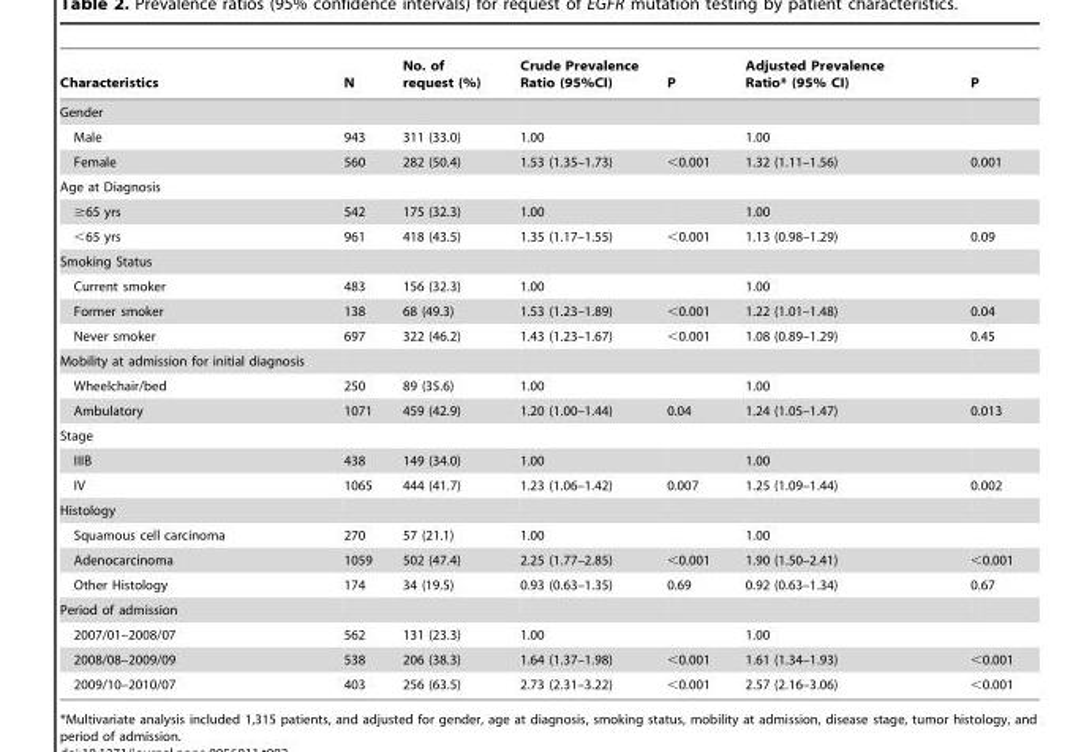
<table><thead><tr><td>Characteristics</td><td>N</td><td>No. of request (%)</td><td>Crude Prevalence Ratio (95%CI)</td><td>P</td><td>Adjusted Prevalence Ratio* (95% CI)</td><td>P</td></tr></thead><tbody><tr><td colspan="7">Gender</td></tr><tr><td>Male</td><td>943</td><td>311 (33.0)</td><td>1.00</td><td></td><td>1.00</td><td></td></tr><tr><td>Female</td><td>560</td><td>282 (50.4)</td><td>1.53 (1.35–1.73)</td><td>&lt;0.001</td><td>1.32 (1.11–1.56)</td><td>0.001</td></tr><tr><td colspan="7">Age at Diagnosis</td></tr><tr><td>≥65 yrs</td><td>542</td><td>175 (32.3)</td><td>1.00</td><td></td><td>1.00</td><td></td></tr><tr><td>&lt;65 yrs</td><td>961</td><td>418 (43.5)</td><td>1.35 (1.17–1.55)</td><td>&lt;0.001</td><td>1.13 (0.98–1.29)</td><td>0.09</td></tr><tr><td colspan="7">Smoking Status</td></tr><tr><td>Current smoker</td><td>483</td><td>156 (32.3)</td><td>1.00</td><td></td><td>1.00</td><td></td></tr><tr><td>Former smoker</td><td>138</td><td>68 (49.3)</td><td>1.53 (1.23–1.89)</td><td>&lt;0.001</td><td>1.22 (1.01–1.48)</td><td>0.04</td></tr><tr><td>Never smoker</td><td>697</td><td>322 (46.2)</td><td>1.43 (1.23–1.67)</td><td>&lt;0.001</td><td>1.08 (0.89–1.29)</td><td>0.45</td></tr><tr><td colspan="7">Mobility at admission for initial diagnosis</td></tr><tr><td>Wheelchair/bed</td><td>250</td><td>89 (35.6)</td><td>1.00</td><td></td><td>1.00</td><td></td></tr><tr><td>Ambulatory</td><td>1071</td><td>459 (42.9)</td><td>1.20 (1.00–1.44)</td><td>0.04</td><td>1.24 (1.05–1.47)</td><td>0.013</td></tr><tr><td colspan="7">Stage</td></tr><tr><td>IIIB</td><td>438</td><td>149 (34.0)</td><td>1.00</td><td></td><td>1.00</td><td></td></tr><tr><td>IV</td><td>1065</td><td>444 (41.7)</td><td>1.23 (1.06–1.42)</td><td>0.007</td><td>1.25 (1.09–1.44)</td><td>0.002</td></tr><tr><td colspan="7">Histology</td></tr><tr><td>Squamous cell carcinoma</td><td>270</td><td>57 (21.1)</td><td>1.00</td><td></td><td>1.00</td><td></td></tr><tr><td>Adenocarcinoma</td><td>1059</td><td>502 (47.4)</td><td>2.25 (1.77–2.85)</td><td>&lt;0.001</td><td>1.90 (1.50–2.41)</td><td>&lt;0.001</td></tr><tr><td>Other Histology</td><td>174</td><td>34 (19.5)</td><td>0.93 (0.63–1.35)</td><td>0.69</td><td>0.92 (0.63–1.34)</td><td>0.67</td></tr><tr><td colspan="7">Period of admission</td></tr><tr><td>2007/01–2008/07</td><td>562</td><td>131 (23.3)</td><td>1.00</td><td></td><td>1.00</td><td></td></tr><tr><td>2008/08–2009/09</td><td>538</td><td>206 (38.3)</td><td>1.64 (1.37–1.98)</td><td>&lt;0.001</td><td>1.61 (1.34–1.93)</td><td>&lt;0.001</td></tr><tr><td>2009/10–2010/07</td><td>403</td><td>256 (63.5)</td><td>2.73 (2.31–3.22)</td><td>&lt;0.001</td><td>2.57 (2.16–3.06)</td><td>&lt;0.001</td></tr></tbody></table>